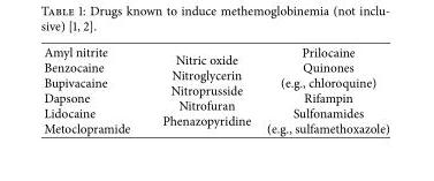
<table><tbody><tr><td>Amyl nitrite Benzocaine Bupivacaine Dapsone Lidocaine Metoclopramide</td><td>Nitric oxide Nitroglycerin Nitroprusside Nitrofuran Phenazopyridine</td><td>Prilocaine Quinones (e.g., chloroquine) Rifampin Sulfonamides (e.g., sulfamethoxazole)</td></tr></tbody></table>